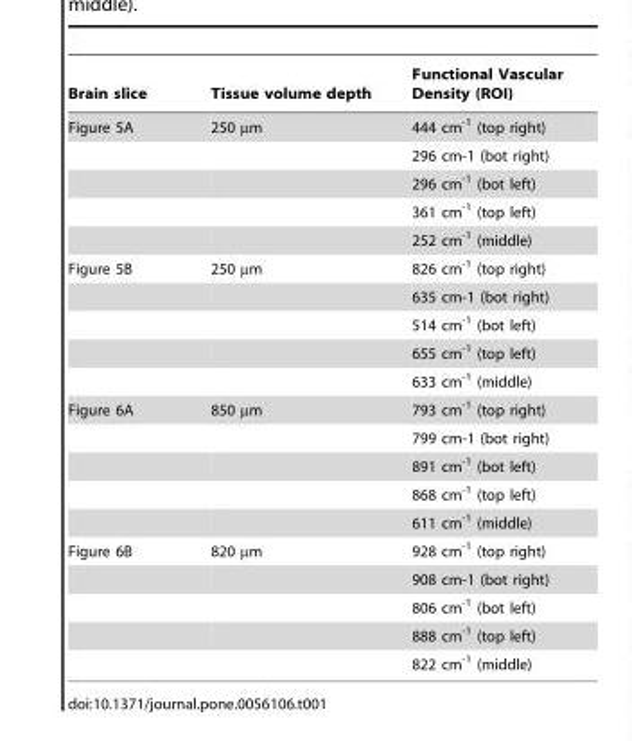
<table><thead><tr><td>Brain slice</td><td>Tissue volume depth</td><td>Functional Vascular Density (ROI)</td></tr></thead><tbody><tr><td rowspan="5">Figure 5A</td><td>250 µm</td><td>444 cm<sup>-1</sup> (top right)</td></tr><tr><td></td><td>296 cm-1 (bot right)</td></tr><tr><td></td><td>296 cm<sup>-1</sup> (bot left)</td></tr><tr><td></td><td>361 cm<sup>-1</sup> (top left)</td></tr><tr><td></td><td>252 cm<sup>-1</sup> (middle)</td></tr><tr><td rowspan="5">Figure 5B</td><td>250 µm</td><td>826 cm<sup>-1</sup> (top right)</td></tr><tr><td></td><td>635 cm-1 (bot right)</td></tr><tr><td></td><td>514 cm<sup>-1</sup> (bot left)</td></tr><tr><td></td><td>655 cm<sup>-1</sup> (top left)</td></tr><tr><td></td><td>633 cm<sup>-1</sup> (middle)</td></tr><tr><td rowspan="5">Figure 6A</td><td>850 µm</td><td>793 cm<sup>-1</sup> (top right)</td></tr><tr><td></td><td>799 cm-1 (bot right)</td></tr><tr><td></td><td>891 cm<sup>-1</sup> (bot left)</td></tr><tr><td></td><td>868 cm<sup>-1</sup> (top left)</td></tr><tr><td></td><td>611 cm<sup>-1</sup> (middle)</td></tr><tr><td rowspan="5">Figure 6B</td><td>820 µm</td><td>928 cm<sup>-1</sup> (top right)</td></tr><tr><td></td><td>908 cm-1 (bot right)</td></tr><tr><td></td><td>806 cm<sup>-1</sup> (bot left)</td></tr><tr><td></td><td>888 cm<sup>-1</sup> (top left)</td></tr><tr><td></td><td>822 cm<sup>-1</sup> (middle)</td></tr></tbody></table>